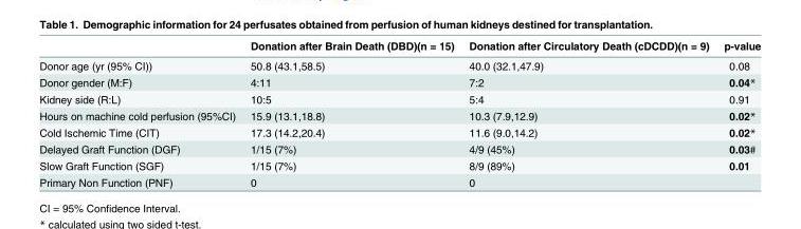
<table><thead><tr><td></td><td>Donation after Brain Death (DBD)(n = 15)</td><td>Donation after Circulatory Death (cDCDD)(n = 9)</td><td>p-value</td></tr></thead><tbody><tr><td>Donor age (yr (95% CI))</td><td>50.8 (43.1,58.5)</td><td>40.0 (32.1,47.9)</td><td>0.08</td></tr><tr><td>Donor gender (M:F)</td><td>4:11</td><td>7:2</td><td>0.04*</td></tr><tr><td>Kidney side (R:L)</td><td>10:5</td><td>5:4</td><td>0.91</td></tr><tr><td>Hours on machine cold perfusion (95%CI)</td><td>15.9 (13.1,18.8)</td><td>10.3 (7.9,12.9)</td><td>0.02*</td></tr><tr><td>Cold Ischemic Time (CIT)</td><td>17.3 (14.2,20.4)</td><td>11.6 (9.0,14.2)</td><td>0.02*</td></tr><tr><td>Delayed Graft Function (DGF)</td><td>1/15 (7%)</td><td>4/9 (45%)</td><td>0.03#</td></tr><tr><td>Slow Graft Function (SGF)</td><td>1/15 (7%)</td><td>8/9 (89%)</td><td>0.01</td></tr><tr><td>Primary Non Function (PNF)</td><td>0</td><td>0</td><td></td></tr></tbody></table>